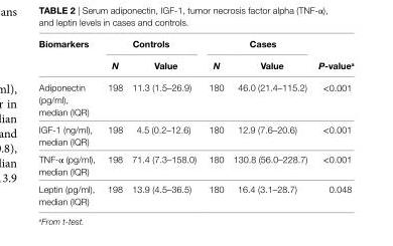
<table><thead><tr><td rowspan="2">Biomarkers</td><td colspan="2">controls</td><td colspan="2">cases</td><td rowspan="2">P-value<sup>a</sup></td></tr><tr><td>N</td><td>Value</td><td>N</td><td>Value</td></tr></thead><tbody><tr><td>Adiponectin (pg/ml), median (IQR)</td><td>198</td><td>11.3 (1.5–26.9)</td><td>180</td><td>46.0 (21.4–115.2)</td><td>&lt;0.001</td></tr><tr><td>IGF-1 (ng/ml), median (IQR)</td><td>198</td><td>4.5 (0.2–12.6)</td><td>180</td><td>12.9 (7.6–20.6)</td><td>&lt;0.001</td></tr><tr><td>TNF-α (pg/ml), median (IQR)</td><td>198</td><td>71.4 (7.3–158.0)</td><td>180</td><td>130.8 (56.0–228.7)</td><td>&lt;0.001</td></tr><tr><td>Leptin (pg/ml), median (IQR)</td><td>198</td><td>13.9 (4.5–36.5)</td><td>180</td><td>16.4 (3.1–28.7)</td><td>0.048</td></tr></tbody></table>